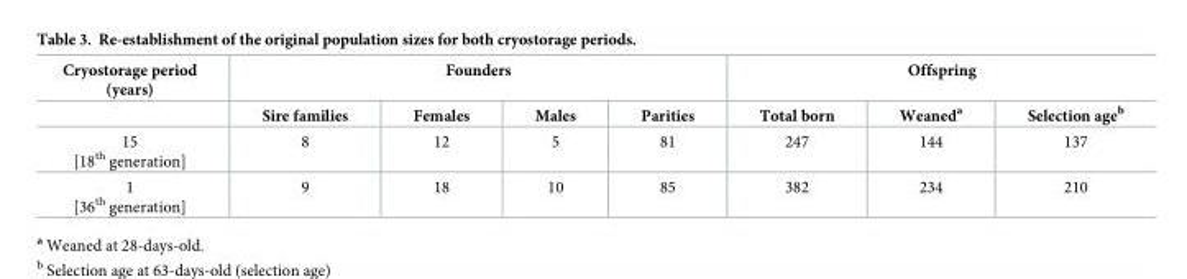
<table><thead><tr><td rowspan="2">Cryostorage period (years)</td><td colspan="4">Founders</td><td colspan="3">Offspring</td></tr><tr><td>Sire families</td><td>Females</td><td>Males</td><td>Parities</td><td>Total born</td><td>Weaned<sup>a</sup></td><td>Selection age<sup>b</sup></td></tr></thead><tbody><tr><td>15 [18<sup>th</sup> generation]</td><td>8</td><td>12</td><td>5</td><td>81</td><td>247</td><td>144</td><td>137</td></tr><tr><td>1 [36<sup>th</sup> generation]</td><td>9</td><td>18</td><td>10</td><td>85</td><td>382</td><td>234</td><td>210</td></tr></tbody></table>